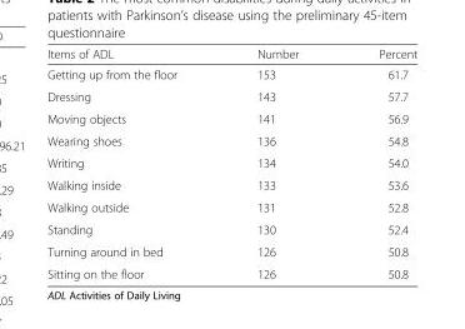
<table><thead><tr><td>Items of ADL</td><td>Number</td><td>Percent</td></tr></thead><tbody><tr><td>Getting up from the floor</td><td>153</td><td>61.7</td></tr><tr><td>Dressing</td><td>143</td><td>57.7</td></tr><tr><td>Moving objects</td><td>141</td><td>56.9</td></tr><tr><td>Wearing shoes</td><td>136</td><td>54.8</td></tr><tr><td>Writing</td><td>134</td><td>54.0</td></tr><tr><td>Walking inside</td><td>133</td><td>53.6</td></tr><tr><td>Walking outside</td><td>131</td><td>52.8</td></tr><tr><td>Standing</td><td>130</td><td>52.4</td></tr><tr><td>Turning around in bed</td><td>126</td><td>50.8</td></tr><tr><td>Sitting on the floor</td><td>126</td><td>50.8</td></tr></tbody></table>